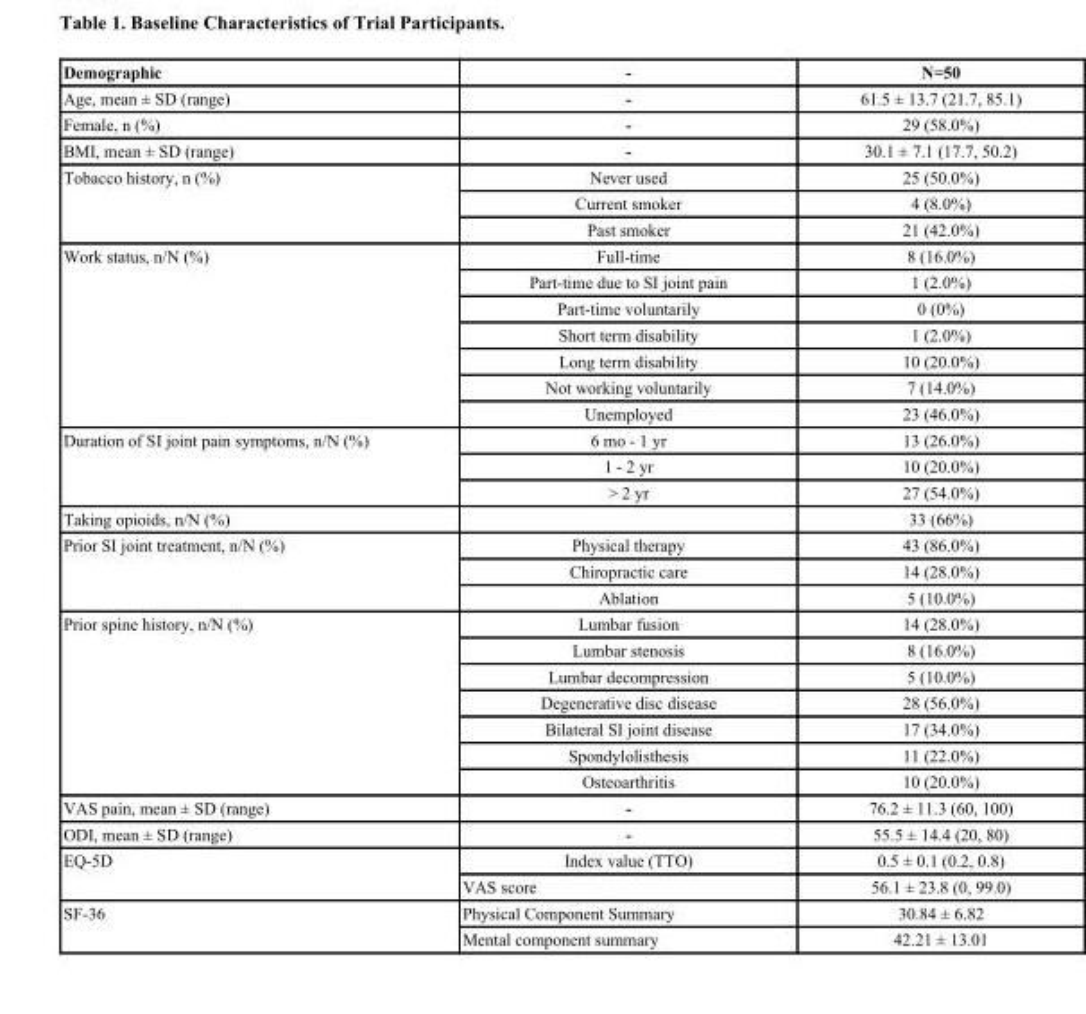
<table><thead><tr><td>Demographic</td><td>-</td><td>N=50</td></tr></thead><tbody><tr><td>Age, mean ± SD (range)</td><td>-</td><td>61.5 ± 13.7 (21.7, 85.1)</td></tr><tr><td>Female, n (%)</td><td>-</td><td>29 (58.0%)</td></tr><tr><td>BMI, mean ± SD (range)</td><td>-</td><td>30.1 ± 7.1 (17.7, 50.2)</td></tr><tr><td rowspan="3">Tobacco history, n (%)</td><td>Never used</td><td>25 (50.0%)</td></tr><tr><td>Current smoker</td><td>4 (8.0%)</td></tr><tr><td>Past smoker</td><td>21 (42.0%)</td></tr><tr><td rowspan="7">Work status, n/N (%)</td><td>Full-time</td><td>8 (16.0%)</td></tr><tr><td>Part-time due to SI joint pain</td><td>1 (2.0%)</td></tr><tr><td>Part-time voluntarily</td><td>0 (0%)</td></tr><tr><td>Short term disability</td><td>1 (2.0%)</td></tr><tr><td>Long term disability</td><td>10 (20.0%)</td></tr><tr><td>Not working voluntarily</td><td>7 (14.0%)</td></tr><tr><td>Unemployed</td><td>23 (46.0%)</td></tr><tr><td rowspan="3">Duration of SI joint pain symptoms, n/N (%)</td><td>6 mo - 1 yr</td><td>13 (26.0%)</td></tr><tr><td>1 - 2 yr</td><td>10 (20.0%)</td></tr><tr><td>&gt; 2 yr</td><td>27 (54.0%)</td></tr><tr><td>Taking opioids, n/N (%)</td><td></td><td>33 (66%)</td></tr><tr><td rowspan="3">Prior SI joint treatment, n/N (%)</td><td>Physical therapy</td><td>43 (86.0%)</td></tr><tr><td>Chiropractic care</td><td>14 (28.0%)</td></tr><tr><td>Ablation</td><td>5 (10.0%)</td></tr><tr><td rowspan="7">Prior spine history, n/N (%)</td><td>Lumbar fusion</td><td>14 (28.0%)</td></tr><tr><td>Lumbar stenosis</td><td>8 (16.0%)</td></tr><tr><td>Lumbar decompression</td><td>5 (10.0%)</td></tr><tr><td>Degenerative disc disease</td><td>28 (56.0%)</td></tr><tr><td>Bilateral SI joint disease</td><td>17 (34.0%)</td></tr><tr><td>Spondylolisthesis</td><td>11 (22.0%)</td></tr><tr><td>Osteoarthritis</td><td>10 (20.0%)</td></tr><tr><td>VAS pain, mean ± SD (range)</td><td>-</td><td>76.2 ± 11.3 (60, 100)</td></tr><tr><td>ODI, mean ± SD (range)</td><td>-</td><td>55.5 ± 14.4 (20, 80)</td></tr><tr><td rowspan="2">EQ-5D</td><td>Index value (TTO)</td><td>0.5 ± 0.1 (0.2, 0.8)</td></tr><tr><td>VAS score</td><td>56.1 ± 23.8 (0, 99.0)</td></tr><tr><td rowspan="2">SF-36</td><td>Physical Component Summary</td><td>30.84 ± 6.82</td></tr><tr><td>Mental component summary</td><td>42.21 ± 13.01</td></tr></tbody></table>